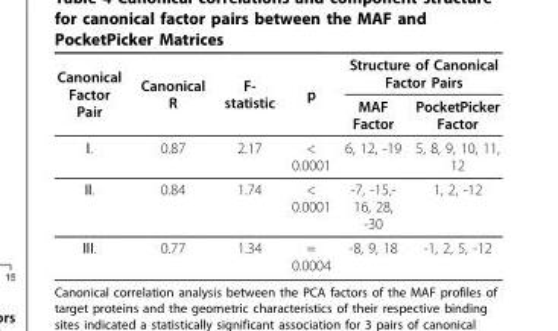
<table><thead><tr><td rowspan="2">Canonical Factor Pair</td><td rowspan="2">Canonical R</td><td rowspan="2">F- statistic</td><td rowspan="2">p</td><td colspan="2">Structure of Canonical Factor Pairs</td></tr><tr><td>MAF Factor</td><td>PocketPicker Factor</td></tr></thead><tbody><tr><td>I.</td><td>0.87</td><td>2.17</td><td>&lt; 0.0001</td><td>6, 12, -19</td><td>5, 8, 9, 10, 11, 12</td></tr><tr><td>II.</td><td>0.84</td><td>1.74</td><td>&lt; 0.0001</td><td>-7, -15,- 16, 28, -30</td><td>1, 2, -12</td></tr><tr><td>III.</td><td>0.77</td><td>1.34</td><td>= 0.0004</td><td>-8, 9, 18</td><td>-1, 2, 5, -12</td></tr></tbody></table>